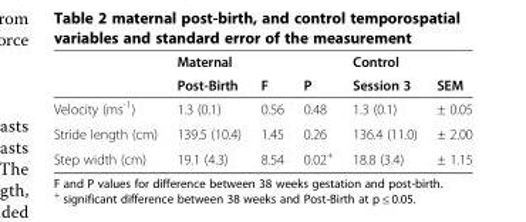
<table><thead><tr><td></td><td>Maternal Post-Birth</td><td>F</td><td>P</td><td>Control Session 3</td><td>SEM</td></tr></thead><tbody><tr><td>Velocity (ms<sup>-1</sup>)</td><td>1.3 (0.1)</td><td>0.56</td><td>0.48</td><td>1.3 (0.1)</td><td>± 0.05</td></tr><tr><td>Stride length (cm)</td><td>139.5 (10.4)</td><td>1.45</td><td>0.26</td><td>136.4 (11.0)</td><td>± 2.00</td></tr><tr><td>Step width (cm)</td><td>19.1 (4.3)</td><td>8.54</td><td>0.02<sup>+</sup></td><td>18.8 (3.4)</td><td>± 1.15</td></tr></tbody></table>